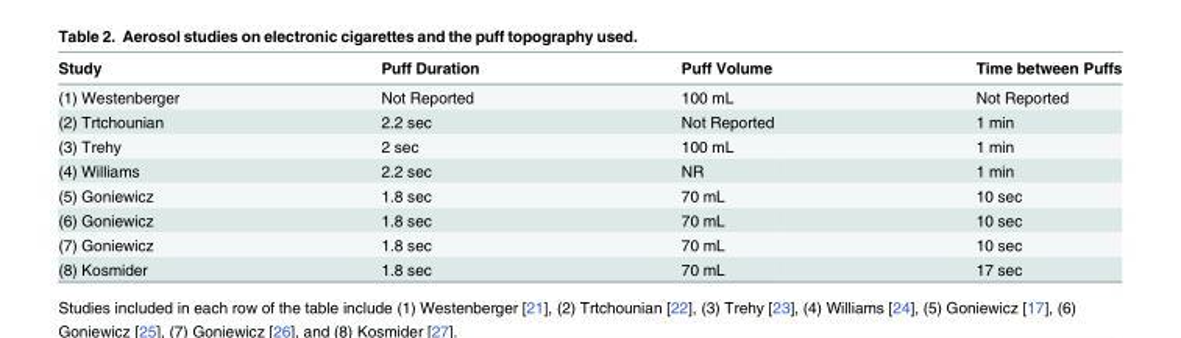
<table><thead><tr><td>Study</td><td>Puff Duration</td><td>Puff Volume</td><td>Time between Puffs</td></tr></thead><tbody><tr><td>(1) Westenberger</td><td>Not Reported</td><td>100 mL</td><td>Not Reported</td></tr><tr><td>(2) Trtchounian</td><td>2.2 sec</td><td>Not Reported</td><td>1 min</td></tr><tr><td>(3) Trehy</td><td>2 sec</td><td>100 mL</td><td>1 min</td></tr><tr><td>(4) Williams</td><td>2.2 sec</td><td>NR</td><td>1 min</td></tr><tr><td>(5) Goniewicz</td><td>1.8 sec</td><td>70 mL</td><td>10 sec</td></tr><tr><td>(6) Goniewicz</td><td>1.8 sec</td><td>70 mL</td><td>10 sec</td></tr><tr><td>(7) Goniewicz</td><td>1.8 sec</td><td>70 mL</td><td>10 sec</td></tr><tr><td>(8) Kosmider</td><td>1.8 sec</td><td>70 mL</td><td>17 sec</td></tr></tbody></table>